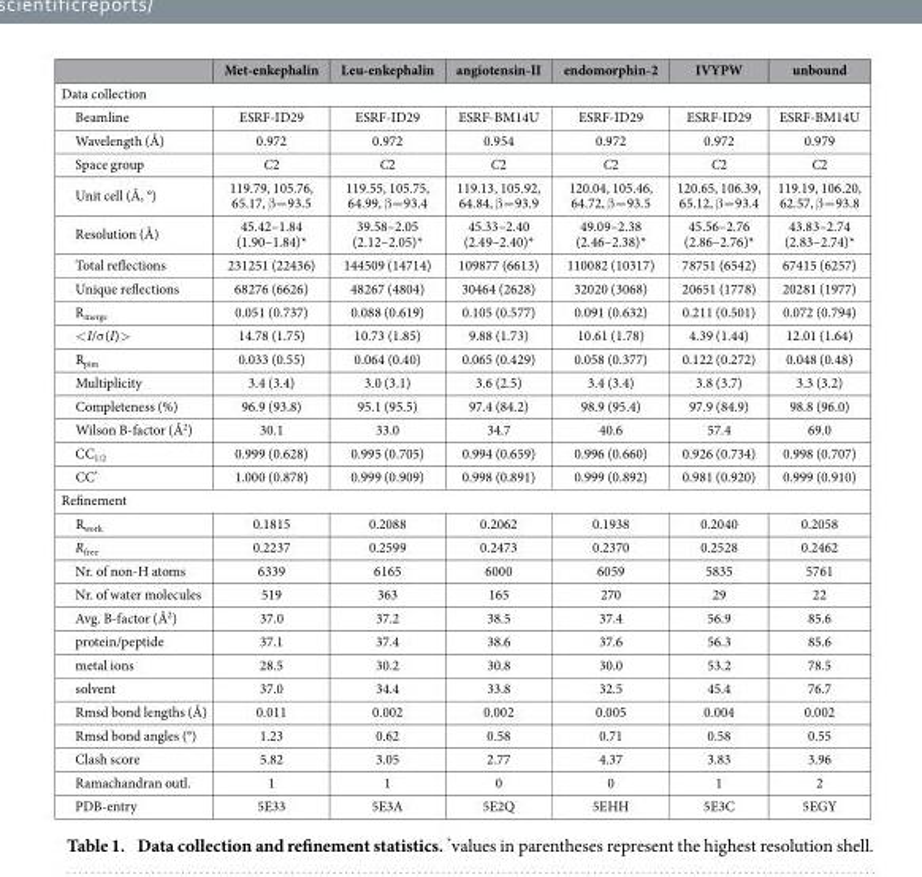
<table><thead><tr><td></td><td>Met-enkephalin</td><td>Leu-enkephalin</td><td>angiotensin-II</td><td>endomorphin-2</td><td>IVYPW</td><td>unbound</td></tr></thead><tbody><tr><td colspan="7">Data collection</td></tr><tr><td>Beamline</td><td>ESRF-ID29</td><td>ESRF-ID29</td><td>ESRF-BM14U</td><td>ESRF-ID29</td><td>ESRF-ID29</td><td>ESRF-BM14U</td></tr><tr><td>Wavelength (Å)</td><td>0.972</td><td>0.972</td><td>0.954</td><td>0.972</td><td>0.972</td><td>0.979</td></tr><tr><td>Space group</td><td>C2</td><td>C2</td><td>C2</td><td>C2</td><td>C2</td><td>C2</td></tr><tr><td>Unit cell (Å, °)</td><td>119.79, 105.76, 65.17, β = 93.5</td><td>119.55, 105.75, 64.99, β = 93.4</td><td>119.13, 105.92, 64.84, β = 93.9</td><td>120.04, 105.46, 64.72, β = 93.5</td><td>120.65, 106.39, 65.12, β = 93.4</td><td>119.19, 106.20, 62.57, β = 93.8</td></tr><tr><td>Resolution (Å)</td><td>45.42–1.84 (1.90–1.84)*</td><td>39.58–2.05 (2.12–2.05)*</td><td>45.33–2.40 (2.49–2.40)*</td><td>49.09–2.38 (2.46–2.38)*</td><td>45.56–2.76 (2.86–2.76)*</td><td>43.83–2.74 (2.83–2.74)*</td></tr><tr><td>Total reflections</td><td>231251 (22436)</td><td>144509 (14714)</td><td>109877 (6613)</td><td>110082 (10317)</td><td>78751 (6542)</td><td>67415 (6257)</td></tr><tr><td>Unique reflections</td><td>68276 (6626)</td><td>48267 (4804)</td><td>30464 (2628)</td><td>32020 (3068)</td><td>20651 (1778)</td><td>20281 (1977)</td></tr><tr><td>R<sub>merge</sub></td><td>0.051 (0.737)</td><td>0.088 (0.619)</td><td>0.105 (0.577)</td><td>0.091 (0.632)</td><td>0.211 (0.501)</td><td>0.072 (0.794)</td></tr><tr><td>&lt; I/σ (I)&gt;</td><td>14.78 (1.75)</td><td>10.73 (1.85)</td><td>9.88 (1.73)</td><td>10.61 (1.78)</td><td>4.39 (1.44)</td><td>12.01 (1.64)</td></tr><tr><td>R<sub>pim</sub></td><td>0.033 (0.55)</td><td>0.064 (0.40)</td><td>0.065 (0.429)</td><td>0.058 (0.377)</td><td>0.122 (0.272)</td><td>0.048 (0.48)</td></tr><tr><td>Multiplicity</td><td>3.4 (3.4)</td><td>3.0 (3.1)</td><td>3.6 (2.5)</td><td>3.4 (3.4)</td><td>3.8 (3.7)</td><td>3.3 (3.2)</td></tr><tr><td>Completeness (%)</td><td>96.9 (93.8)</td><td>95.1 (95.5)</td><td>97.4 (84.2)</td><td>98.9 (95.4)</td><td>97.9 (84.9)</td><td>98.8 (96.0)</td></tr><tr><td>Wilson B-factor (Å<sup>2</sup>)</td><td>30.1</td><td>33.0</td><td>34.7</td><td>40.6</td><td>57.4</td><td>69.0</td></tr><tr><td>CC<sub>1/2</sub></td><td>0.999 (0.628)</td><td>0.995 (0.705)</td><td>0.994 (0.659)</td><td>0.996 (0.660)</td><td>0.926 (0.734)</td><td>0.998 (0.707)</td></tr><tr><td>CC*</td><td>1.000 (0.878)</td><td>0.999 (0.909)</td><td>0.998 (0.891)</td><td>0.999 (0.892)</td><td>0.981 (0.920)</td><td>0.999 (0.910)</td></tr><tr><td colspan="7">Refinement</td></tr><tr><td>R<sub>work</sub></td><td>0.1815</td><td>0.2088</td><td>0.2062</td><td>0.1938</td><td>0.2040</td><td>0.2058</td></tr><tr><td>R<sub>free</sub></td><td>0.2237</td><td>0.2599</td><td>0.2473</td><td>0.2370</td><td>0.2528</td><td>0.2462</td></tr><tr><td>Nr. of non-H atoms</td><td>6339</td><td>6165</td><td>6000</td><td>6059</td><td>5835</td><td>5761</td></tr><tr><td>Nr. of water molecules</td><td>519</td><td>363</td><td>165</td><td>270</td><td>29</td><td>22</td></tr><tr><td>Avg. B-factor (Å<sup>2</sup>)</td><td>37.0</td><td>37.2</td><td>38.5</td><td>37.4</td><td>56.9</td><td>85.6</td></tr><tr><td>protein/peptide</td><td>37.1</td><td>37.4</td><td>38.6</td><td>37.6</td><td>56.3</td><td>85.6</td></tr><tr><td>metal ions</td><td>28.5</td><td>30.2</td><td>30.8</td><td>30.0</td><td>53.2</td><td>78.5</td></tr><tr><td>solvent</td><td>37.0</td><td>34.4</td><td>33.8</td><td>32.5</td><td>45.4</td><td>76.7</td></tr><tr><td>Rmsd bond lengths (Å)</td><td>0.011</td><td>0.002</td><td>0.002</td><td>0.005</td><td>0.004</td><td>0.002</td></tr><tr><td>Rmsd bond angles (°)</td><td>1.23</td><td>0.62</td><td>0.58</td><td>0.71</td><td>0.58</td><td>0.55</td></tr><tr><td>Clash score</td><td>5.82</td><td>3.05</td><td>2.77</td><td>4.37</td><td>3.83</td><td>3.96</td></tr><tr><td>Ramachandran outl.</td><td>1</td><td>1</td><td>0</td><td>0</td><td>1</td><td>2</td></tr><tr><td>PDB-entry</td><td>5E33</td><td>5E3A</td><td>5E2Q</td><td>5EHH</td><td>5E3C</td><td>5EGY</td></tr></tbody></table>